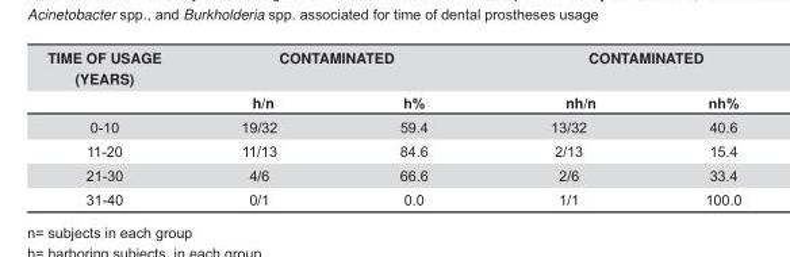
<table><thead><tr><td rowspan="2">TIME OF USAGE (YEARS)</td><td colspan="2">CONTAMINATED</td><td colspan="2">CONTAMINATED</td></tr><tr><td>h/n</td><td>h%</td><td>nh/n</td><td>nh%</td></tr></thead><tbody><tr><td>0-10</td><td>19/32</td><td>59.4</td><td>13/32</td><td>40.6</td></tr><tr><td>11-20</td><td>11/13</td><td>84.6</td><td>2/13</td><td>15.4</td></tr><tr><td>21-30</td><td>4/6</td><td>66.6</td><td>2/6</td><td>33.4</td></tr><tr><td>31-40</td><td>0/1</td><td>0.0</td><td>1/1</td><td>100.0</td></tr></tbody></table>